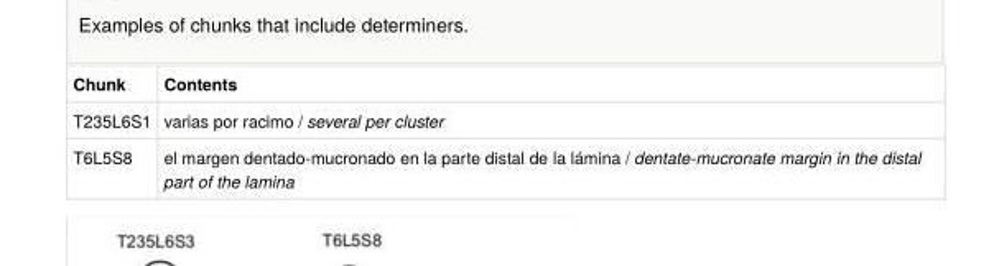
<table><tbody><tr><td>Chunk</td><td>Contents</td></tr><tr><td>T235L6S1</td><td>varias por racimo / several per cluster</td></tr><tr><td>T6L5S8</td><td>el margen dentado-mucronado en la parte distal de la lámina / dentate-mucronate margin in the distal part of the lamina</td></tr></tbody></table>